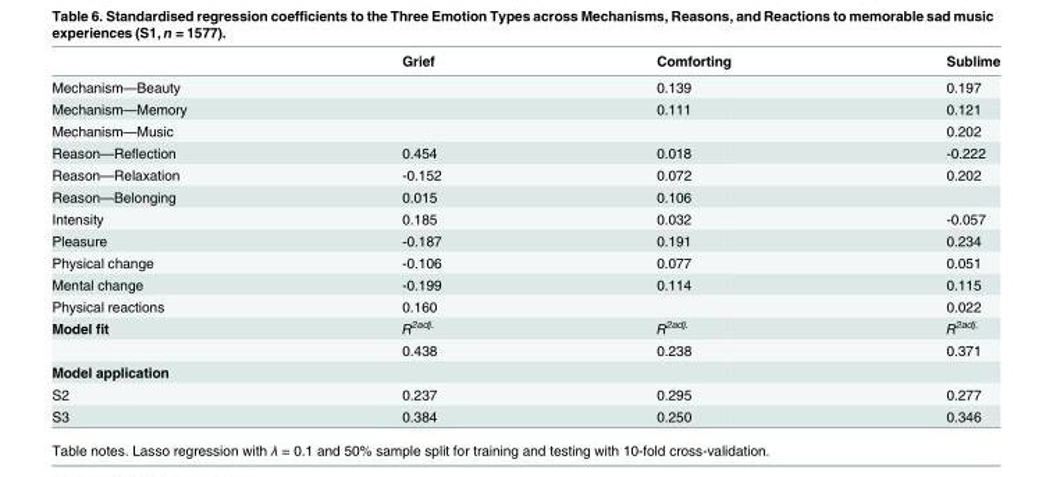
<table><thead><tr><td></td><td>Grief</td><td>Comforting</td><td>Sublime</td></tr></thead><tbody><tr><td>Mechanism—Beauty</td><td></td><td>0.139</td><td>0.197</td></tr><tr><td>Mechanism—Memory</td><td></td><td>0.111</td><td>0.121</td></tr><tr><td>Mechanism—Music</td><td></td><td></td><td>0.202</td></tr><tr><td>Reason—Reflection</td><td>0.454</td><td>0.018</td><td>-0.222</td></tr><tr><td>Reason—Relaxation</td><td>-0.152</td><td>0.072</td><td>0.202</td></tr><tr><td>Reason—Belonging</td><td>0.015</td><td>0.106</td><td></td></tr><tr><td>Intensity</td><td>0.185</td><td>0.032</td><td>-0.057</td></tr><tr><td>Pleasure</td><td>-0.187</td><td>0.191</td><td>0.234</td></tr><tr><td>Physical change</td><td>-0.106</td><td>0.077</td><td>0.051</td></tr><tr><td>Mental change</td><td>-0.199</td><td>0.114</td><td>0.115</td></tr><tr><td>Physical reactions</td><td>0.160</td><td></td><td>0.022</td></tr><tr><td rowspan="2">Model fit</td><td>R<sup>2adj.</sup></td><td>R<sup>2adj.</sup></td><td>R<sup>2adj.</sup></td></tr><tr><td>0.438</td><td>0.238</td><td>0.371</td></tr><tr><td colspan="4">Model application</td></tr><tr><td>S2</td><td>0.237</td><td>0.295</td><td>0.277</td></tr><tr><td>S3</td><td>0.384</td><td>0.250</td><td>0.346</td></tr></tbody></table>